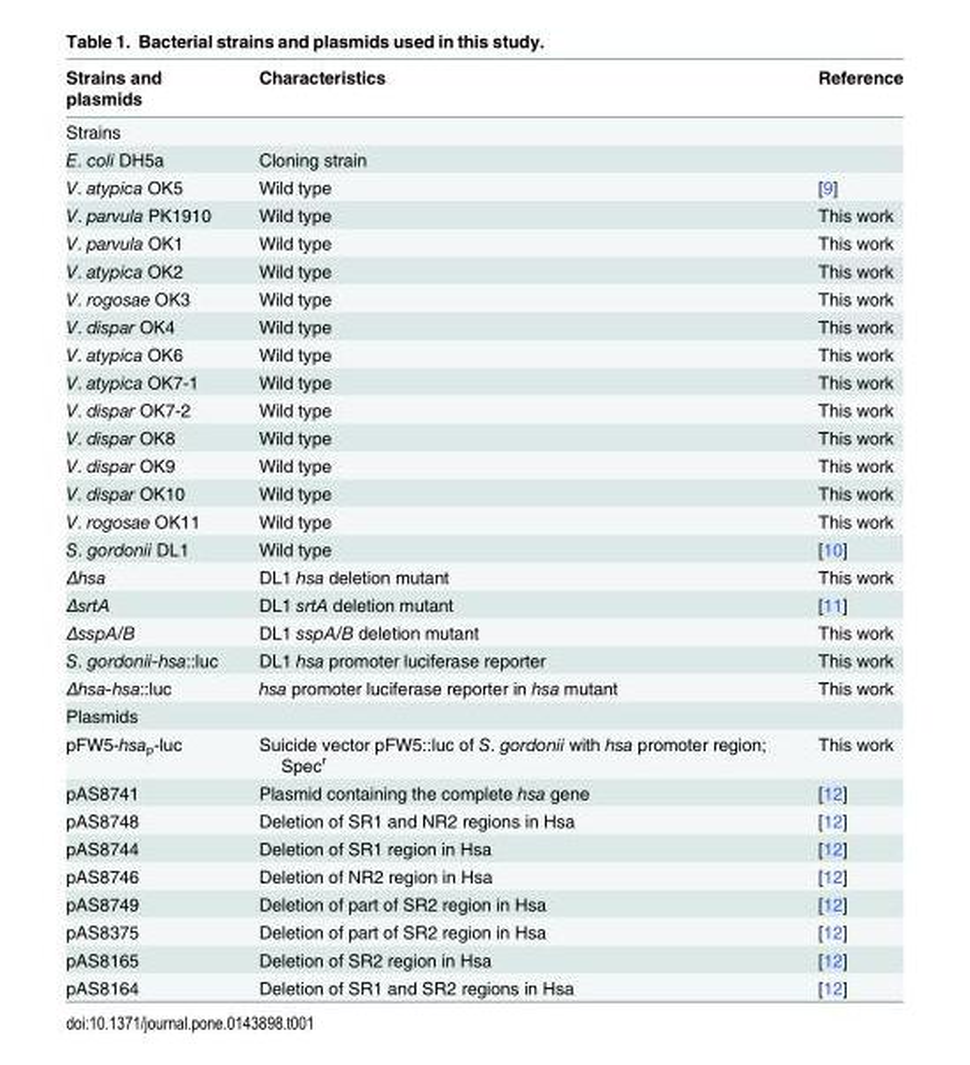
<table><thead><tr><td>Strains and plasmids</td><td>Characteristics</td><td>Reference</td></tr></thead><tbody><tr><td colspan="3">Strains</td></tr><tr><td>E. coli DH5a</td><td>Cloning strain</td><td></td></tr><tr><td>V. atypica OK5</td><td>Wild type</td><td>[9]</td></tr><tr><td>V. parvula PK1910</td><td>Wild type</td><td>This work</td></tr><tr><td>V. parvula OK1</td><td>Wild type</td><td>This work</td></tr><tr><td>V. atypica OK2</td><td>Wild type</td><td>This work</td></tr><tr><td>V. rogosae OK3</td><td>Wild type</td><td>This work</td></tr><tr><td>V. dispar OK4</td><td>Wild type</td><td>This work</td></tr><tr><td>V. atypica OK6</td><td>Wild type</td><td>This work</td></tr><tr><td>V. atypica OK7-1</td><td>Wild type</td><td>This work</td></tr><tr><td>V. dispar OK7-2</td><td>Wild type</td><td>This work</td></tr><tr><td>V. dispar OK8</td><td>Wild type</td><td>This work</td></tr><tr><td>V. dispar OK9</td><td>Wild type</td><td>This work</td></tr><tr><td>V. dispar OK10</td><td>Wild type</td><td>This work</td></tr><tr><td>V. rogosae OK11</td><td>Wild type</td><td>This work</td></tr><tr><td>S. gordonii DL1</td><td>Wild type</td><td>[10]</td></tr><tr><td>Δhsa</td><td>DL1 hsa deletion mutant</td><td>This work</td></tr><tr><td>ΔsrtA</td><td>DL1 srtA deletion mutant</td><td>[11]</td></tr><tr><td>ΔsspA/B</td><td>DL1 sspA/B deletion mutant</td><td>This work</td></tr><tr><td>S. gordonii-hsa::luc</td><td>DL1 hsa promoter luciferase reporter</td><td>This work</td></tr><tr><td>Δhsa-hsa::luc</td><td>hsa promoter luciferase reporter in hsa mutant</td><td>This work</td></tr><tr><td colspan="3">Plasmids</td></tr><tr><td>pFW5-hsa<sub>p</sub>-luc</td><td>Suicide vector pFW5::luc of S. gordonii with hsa promoter region; Spec<sup>r</sup></td><td>This work</td></tr><tr><td>pAS8741</td><td>Plasmid containing the complete hsa gene</td><td>[12]</td></tr><tr><td>pAS8748</td><td>Deletion of SR1 and NR2 regions in Hsa</td><td>[12]</td></tr><tr><td>pAS8744</td><td>Deletion of SR1 region in Hsa</td><td>[12]</td></tr><tr><td>pAS8746</td><td>Deletion of NR2 region in Hsa</td><td>[12]</td></tr><tr><td>pAS8749</td><td>Deletion of part of SR2 region in Hsa</td><td>[12]</td></tr><tr><td>pAS8375</td><td>Deletion of part of SR2 region in Hsa</td><td>[12]</td></tr><tr><td>pAS8165</td><td>Deletion of SR2 region in Hsa</td><td>[12]</td></tr><tr><td>pAS8164</td><td>Deletion of SR1 and SR2 regions in Hsa</td><td>[12]</td></tr></tbody></table>